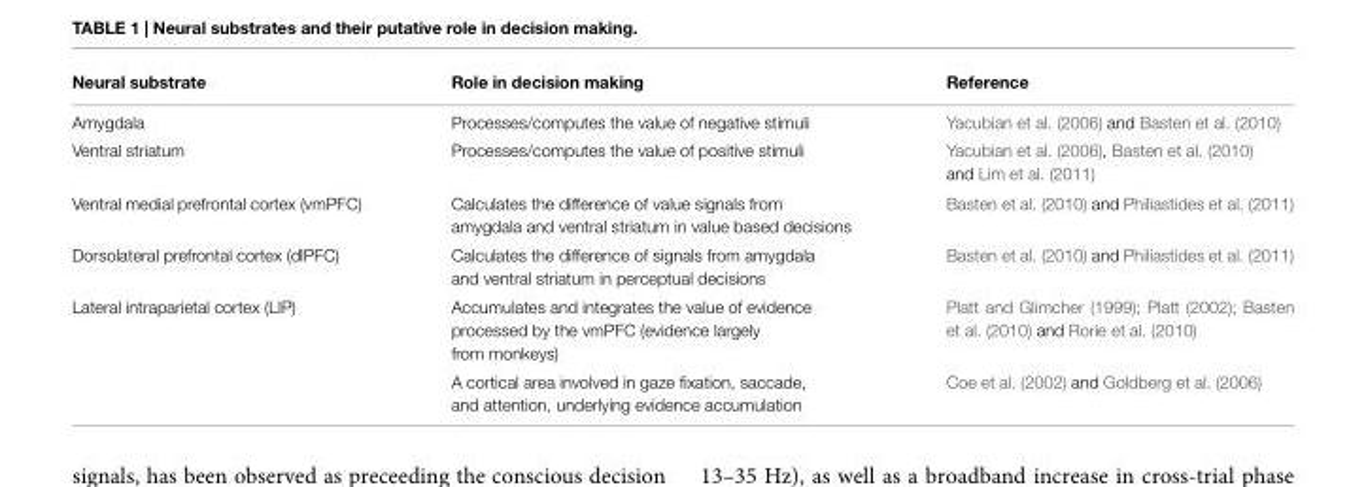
<table><thead><tr><td>Neural substrate</td><td>Role in decision making</td><td>Reference</td></tr></thead><tbody><tr><td>Amygdala</td><td>Processes/computes the value of negative stimuli</td><td>Yacubian et al. (2006) and Basten et al. (2010)</td></tr><tr><td>Ventral striatum</td><td>Processes/computes the value of positive stimuli</td><td>Yacubian et al. (2006), Basten et al. (2010) and Lim et al. (2011)</td></tr><tr><td>Ventral medial prefrontal cortex (vmPFC)</td><td>Calculates the difference of value signals from amygdala and ventral striatum in value based decisions</td><td>Basten et al. (2010) and Philiastides et al. (2011)</td></tr><tr><td>Dorsolateral prefrontal cortex (dlPFC)</td><td>Calculates the difference of signals from amygdala and ventral striatum in perceptual decisions</td><td>Basten et al. (2010) and Philiastides et al. (2011)</td></tr><tr><td rowspan="2">Lateral intraparietal cortex (LIP)</td><td>Accumulates and integrates the value of evidence processed by the vmPFC (evidence largely from monkeys)</td><td>Platt and Glimcher (1999); Platt (2002); Basten et al. (2010) and Rorie et al. (2010)</td></tr><tr><td>A cortical area involved in gaze fixation, saccade, and attention, underlying evidence accumulation</td><td>Coe et al. (2002) and Goldberg et al. (2006)</td></tr></tbody></table>